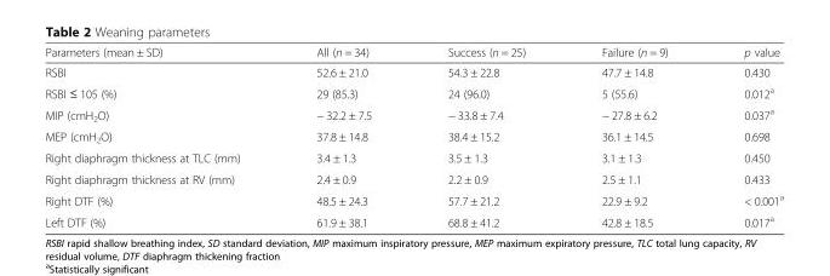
<table><thead><tr><td>Parameters (mean ± SD)</td><td>All (n = 34)</td><td>Success (n = 25)</td><td>Failure (n = 9)</td><td>p value</td></tr></thead><tbody><tr><td>RSBI</td><td>52.6 ± 21.0</td><td>54.3 ± 22.8</td><td>47.7 ± 14.8</td><td>0.430</td></tr><tr><td>RSBI ≤ 105 (%)</td><td>29 (85.3)</td><td>24 (96.0)</td><td>5 (55.6)</td><td>0.012<sup>a</sup></td></tr><tr><td>MIP (cmH<sub>2</sub>O)</td><td>− 32.2 ± 7.5</td><td>− 33.8 ± 7.4</td><td>− 27.8 ± 6.2</td><td>0.037<sup>a</sup></td></tr><tr><td>MEP (cmH<sub>2</sub>O)</td><td>37.8 ± 14.8</td><td>38.4 ± 15.2</td><td>36.1 ± 14.5</td><td>0.698</td></tr><tr><td>Right diaphragm thickness at TLC (mm)</td><td>3.4 ± 1.3</td><td>3.5 ± 1.3</td><td>3.1 ± 1.3</td><td>0.450</td></tr><tr><td>Right diaphragm thickness at RV (mm)</td><td>2.4 ± 0.9</td><td>2.2 ± 0.9</td><td>2.5 ± 1.1</td><td>0.433</td></tr><tr><td>Right DTF (%)</td><td>48.5 ± 24.3</td><td>57.7 ± 21.2</td><td>22.9 ± 9.2</td><td>&lt; 0.001<sup>a</sup></td></tr><tr><td>Left DTF (%)</td><td>61.9 ± 38.1</td><td>68.8 ± 41.2</td><td>42.8 ± 18.5</td><td>0.017<sup>a</sup></td></tr></tbody></table>